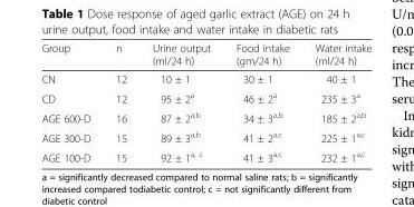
<table><thead><tr><td>Group</td><td>n</td><td>Urine output (ml/24 h)</td><td>Food intake (gm/24 h)</td><td>Water intake (ml/24 h)</td></tr></thead><tbody><tr><td>CN</td><td>12</td><td>10 ± 1</td><td>30 ± 1</td><td>40 ± 1</td></tr><tr><td>CD</td><td>12</td><td>95 ± 2<sup>a</sup></td><td>46 ± 2<sup>a</sup></td><td>235 ± 3<sup>a</sup></td></tr><tr><td>AGE 600-D</td><td>16</td><td>87 ± 2<sup>a,b</sup></td><td>34 ± 3<sup>a,b</sup></td><td>185 ± 2<sup>a,b</sup></td></tr><tr><td>AGE 300-D</td><td>15</td><td>89 ± 3<sup>a,b</sup></td><td>41 ± 2<sup>a,c</sup></td><td>225 ± 1<sup>a,c</sup></td></tr><tr><td>AGE 100-D</td><td>15</td><td>92 ± 1<sup>a, c</sup></td><td>41 ± 3<sup>a,c</sup></td><td>232 ± 1<sup>a,c</sup></td></tr></tbody></table>